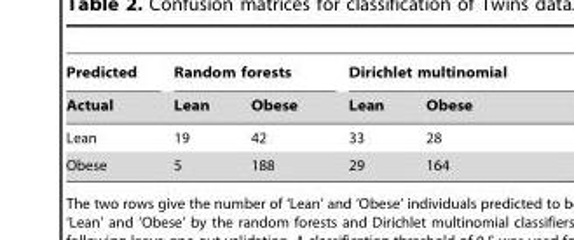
<table><thead><tr><td rowspan="2">Predicted Actual</td><td colspan="2">Random forests</td><td colspan="2">Dirichlet multinomial</td></tr><tr><td>Lean</td><td>Obese</td><td>Lean</td><td>Obese</td></tr></thead><tbody><tr><td>Lean</td><td>19</td><td>42</td><td>33</td><td>28</td></tr><tr><td>Obese</td><td>5</td><td>188</td><td>29</td><td>164</td></tr></tbody></table>